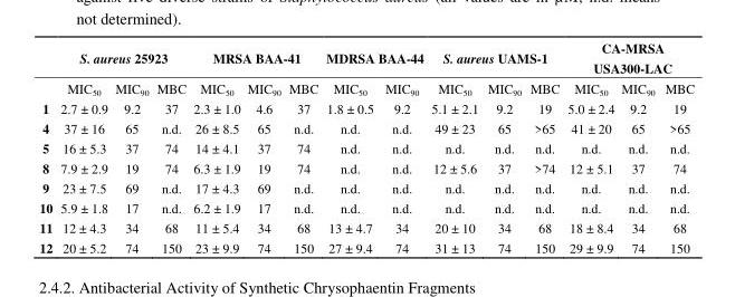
<table><thead><tr><td rowspan="2"></td><td colspan="3">S. aureus 25923</td><td colspan="3">MRSA BAA-41</td><td colspan="2">MDRSA BAA-44</td><td colspan="3">S. aureus UAMS-1</td><td colspan="3">CA-MRSA USA300-LAC</td></tr><tr><td>MIC<sub>50</sub></td><td>MIC<sub>90</sub></td><td>MBC</td><td>MIC<sub>50</sub></td><td>MIC<sub>90</sub></td><td>MBC</td><td>MIC<sub>50</sub></td><td>MIC<sub>90</sub></td><td>MIC<sub>50</sub></td><td>MIC<sub>90</sub></td><td>MBC</td><td>MIC<sub>50</sub></td><td>MIC<sub>90</sub></td><td>MBC</td></tr></thead><tbody><tr><td>1</td><td>2.7 ± 0.9</td><td>9.2</td><td>37</td><td>2.3 ± 1.0</td><td>4.6</td><td>37</td><td>1.8 ± 0.5</td><td>9.2</td><td>5.1 ± 2.1</td><td>9.2</td><td>19</td><td>5.0 ± 2.4</td><td>9.2</td><td>19</td></tr><tr><td>4</td><td>37 ± 16</td><td>65</td><td>n.d.</td><td>26 ± 8.5</td><td>65</td><td>n.d.</td><td>n.d.</td><td>n.d.</td><td>49 ± 23</td><td>65</td><td>&gt;65</td><td>41 ± 20</td><td>65</td><td>&gt;65</td></tr><tr><td>5</td><td>16 ± 5.3</td><td>37</td><td>74</td><td>14 ± 4.1</td><td>37</td><td>74</td><td>n.d.</td><td>n.d.</td><td>n.d.</td><td>n.d.</td><td>n.d.</td><td>n.d.</td><td>n.d.</td><td>n.d.</td></tr><tr><td>8</td><td>7.9 ± 2.9</td><td>19</td><td>74</td><td>6.3 ± 1.9</td><td>19</td><td>74</td><td>n.d.</td><td>n.d.</td><td>12 ± 5.6</td><td>37</td><td>&gt;74</td><td>12 ± 5.1</td><td>37</td><td>74</td></tr><tr><td>9</td><td>23 ± 7.5</td><td>69</td><td>n.d.</td><td>17 ± 4.3</td><td>69</td><td>n.d.</td><td>n.d.</td><td>n.d.</td><td>n.d.</td><td>n.d.</td><td>n.d.</td><td>n.d.</td><td>n.d.</td><td>n.d.</td></tr><tr><td>10</td><td>5.9 ± 1.8</td><td>17</td><td>n.d.</td><td>6.2 ± 1.9</td><td>17</td><td>n.d.</td><td>n.d.</td><td>n.d.</td><td>n.d.</td><td>n.d.</td><td>n.d.</td><td>n.d.</td><td>n.d.</td><td>n.d.</td></tr><tr><td>11</td><td>12 ± 4.3</td><td>34</td><td>68</td><td>11 ± 5.4</td><td>34</td><td>68</td><td>13 ± 4.7</td><td>34</td><td>20 ± 10</td><td>34</td><td>68</td><td>18 ± 8.4</td><td>34</td><td>68</td></tr><tr><td>12</td><td>20 ± 5.2</td><td>74</td><td>150</td><td>23 ± 9.9</td><td>74</td><td>150</td><td>27 ± 9.4</td><td>74</td><td>31 ± 13</td><td>74</td><td>150</td><td>29 ± 9.9</td><td>74</td><td>150</td></tr></tbody></table>